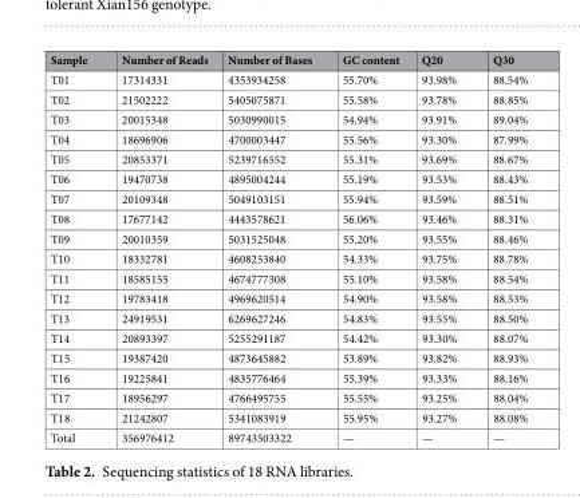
<table><thead><tr><td>Sample</td><td>Number of Reads</td><td>Number of Bases</td><td>GC content</td><td>Q20</td><td>Q30</td></tr></thead><tbody><tr><td>T01</td><td>17314331</td><td>4353934258</td><td>55.70%</td><td>93.98%</td><td>88.54%</td></tr><tr><td>T02</td><td>21502222</td><td>5405075871</td><td>55.58%</td><td>93.78%</td><td>88.85%</td></tr><tr><td>T03</td><td>20015348</td><td>5030990015</td><td>54.94%</td><td>93.91%</td><td>89.04%</td></tr><tr><td>T04</td><td>18696906</td><td>4700003447</td><td>55.56%</td><td>93.30%</td><td>87.99%</td></tr><tr><td>T05</td><td>20853371</td><td>5239716552</td><td>55.31%</td><td>93.69%</td><td>88.67%</td></tr><tr><td>T06</td><td>19470738</td><td>4895004244</td><td>55.19%</td><td>93.53%</td><td>88.43%</td></tr><tr><td>T07</td><td>20109348</td><td>5049103151</td><td>55.94%</td><td>93.59%</td><td>88.51%</td></tr><tr><td>T08</td><td>17677142</td><td>4443578621</td><td>56.06%</td><td>93.46%</td><td>88.31%</td></tr><tr><td>T09</td><td>20010359</td><td>5031525048</td><td>55.20%</td><td>93.55%</td><td>88.46%</td></tr><tr><td>T10</td><td>18332781</td><td>4608253840</td><td>54.33%</td><td>93.75%</td><td>88.78%</td></tr><tr><td>T11</td><td>18585155</td><td>4674777308</td><td>55.10%</td><td>93.58%</td><td>88.54%</td></tr><tr><td>T12</td><td>19783418</td><td>4969620514</td><td>54.90%</td><td>93.58%</td><td>88.53%</td></tr><tr><td>T13</td><td>24919531</td><td>6269627246</td><td>54.83%</td><td>93.55%</td><td>88.50%</td></tr><tr><td>T14</td><td>20893397</td><td>5255291187</td><td>54.42%</td><td>93.30%</td><td>88.07%</td></tr><tr><td>T15</td><td>19387420</td><td>4873645882</td><td>53.89%</td><td>93.82%</td><td>88.93%</td></tr><tr><td>T16</td><td>19225841</td><td>4835776464</td><td>55.39%</td><td>93.33%</td><td>88.16%</td></tr><tr><td>T17</td><td>18956297</td><td>4766495755</td><td>55.55%</td><td>93.25%</td><td>88.04%</td></tr><tr><td>T18</td><td>21242807</td><td>5341083919</td><td>55.95%</td><td>93.27%</td><td>88.08%</td></tr><tr><td>Total</td><td>356976412</td><td>89743503322</td><td>—</td><td>—</td><td>—</td></tr></tbody></table>